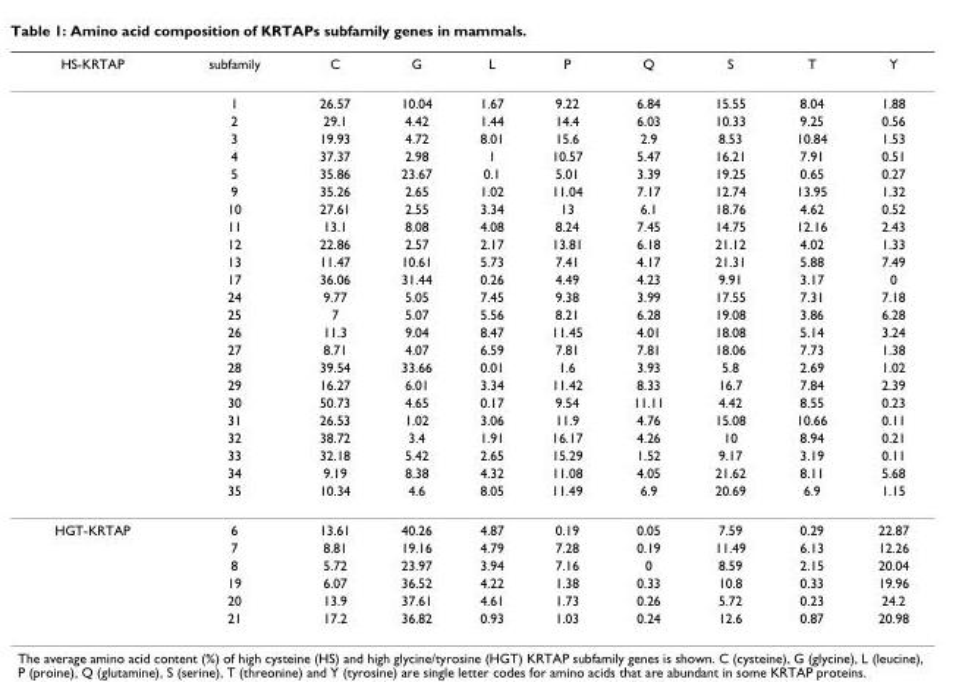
<table><thead><tr><td>HS-KRTAP</td><td>subfamily</td><td>C</td><td>G</td><td>L</td><td>P</td><td>Q</td><td>S</td><td>T</td><td>Y</td></tr></thead><tbody><tr><td></td><td>1</td><td>26.57</td><td>10.04</td><td>1.67</td><td>9.22</td><td>6.84</td><td>15.55</td><td>8.04</td><td>1.88</td></tr><tr><td></td><td>2</td><td>29.1</td><td>4.42</td><td>1.44</td><td>14.4</td><td>6.03</td><td>10.33</td><td>9.25</td><td>0.56</td></tr><tr><td></td><td>3</td><td>19.93</td><td>4.72</td><td>8.01</td><td>15.6</td><td>2.9</td><td>8.53</td><td>10.84</td><td>1.53</td></tr><tr><td></td><td>4</td><td>37.37</td><td>2.98</td><td>1</td><td>10.57</td><td>5.47</td><td>16.21</td><td>7.91</td><td>0.51</td></tr><tr><td></td><td>5</td><td>35.86</td><td>23.67</td><td>0.1</td><td>5.01</td><td>3.39</td><td>19.25</td><td>0.65</td><td>0.27</td></tr><tr><td></td><td>9</td><td>35.26</td><td>2.65</td><td>1.02</td><td>11.04</td><td>7.17</td><td>12.74</td><td>13.95</td><td>1.32</td></tr><tr><td></td><td>10</td><td>27.61</td><td>2.55</td><td>3.34</td><td>13</td><td>6.1</td><td>18.76</td><td>4.62</td><td>0.52</td></tr><tr><td></td><td>11</td><td>13.1</td><td>8.08</td><td>4.08</td><td>8.24</td><td>7.45</td><td>14.75</td><td>12.16</td><td>2.43</td></tr><tr><td></td><td>12</td><td>22.86</td><td>2.57</td><td>2.17</td><td>13.81</td><td>6.18</td><td>21.12</td><td>4.02</td><td>1.33</td></tr><tr><td></td><td>13</td><td>11.47</td><td>10.61</td><td>5.73</td><td>7.41</td><td>4.17</td><td>21.31</td><td>5.88</td><td>7.49</td></tr><tr><td></td><td>17</td><td>36.06</td><td>31.44</td><td>0.26</td><td>4.49</td><td>4.23</td><td>9.91</td><td>3.17</td><td>0</td></tr><tr><td></td><td>24</td><td>9.77</td><td>5.05</td><td>7.45</td><td>9.38</td><td>3.99</td><td>17.55</td><td>7.31</td><td>7.18</td></tr><tr><td></td><td>25</td><td>7</td><td>5.07</td><td>5.56</td><td>8.21</td><td>6.28</td><td>19.08</td><td>3.86</td><td>6.28</td></tr><tr><td></td><td>26</td><td>11.3</td><td>9.04</td><td>8.47</td><td>11.45</td><td>4.01</td><td>18.08</td><td>5.14</td><td>3.24</td></tr><tr><td></td><td>27</td><td>8.71</td><td>4.07</td><td>6.59</td><td>7.81</td><td>7.81</td><td>18.06</td><td>7.73</td><td>1.38</td></tr><tr><td></td><td>28</td><td>39.54</td><td>33.66</td><td>0.01</td><td>1.6</td><td>3.93</td><td>5.8</td><td>2.69</td><td>1.02</td></tr><tr><td></td><td>29</td><td>16.27</td><td>6.01</td><td>3.34</td><td>11.42</td><td>8.33</td><td>16.7</td><td>7.84</td><td>2.39</td></tr><tr><td></td><td>30</td><td>50.73</td><td>4.65</td><td>0.17</td><td>9.54</td><td>11.11</td><td>4.42</td><td>8.55</td><td>0.23</td></tr><tr><td></td><td>31</td><td>26.53</td><td>1.02</td><td>3.06</td><td>11.9</td><td>4.76</td><td>15.08</td><td>10.66</td><td>0.11</td></tr><tr><td></td><td>32</td><td>38.72</td><td>3.4</td><td>1.91</td><td>16.17</td><td>4.26</td><td>10</td><td>8.94</td><td>0.21</td></tr><tr><td></td><td>33</td><td>32.18</td><td>5.42</td><td>2.65</td><td>15.29</td><td>1.52</td><td>9.17</td><td>3.19</td><td>0.11</td></tr><tr><td></td><td>34</td><td>9.19</td><td>8.38</td><td>4.32</td><td>11.08</td><td>4.05</td><td>21.62</td><td>8.11</td><td>5.68</td></tr><tr><td></td><td>35</td><td>10.34</td><td>4.6</td><td>8.05</td><td>11.49</td><td>6.9</td><td>20.69</td><td>6.9</td><td>1.15</td></tr><tr><td rowspan="6">HGT-KRTAP</td><td>6</td><td>13.61</td><td>40.26</td><td>4.87</td><td>0.19</td><td>0.05</td><td>7.59</td><td>0.29</td><td>22.87</td></tr><tr><td>7</td><td>8.81</td><td>19.16</td><td>4.79</td><td>7.28</td><td>0.19</td><td>11.49</td><td>6.13</td><td>12.26</td></tr><tr><td>8</td><td>5.72</td><td>23.97</td><td>3.94</td><td>7.16</td><td>0</td><td>8.59</td><td>2.15</td><td>20.04</td></tr><tr><td>19</td><td>6.07</td><td>36.52</td><td>4.22</td><td>1.38</td><td>0.33</td><td>10.8</td><td>0.33</td><td>19.96</td></tr><tr><td>20</td><td>13.9</td><td>37.61</td><td>4.61</td><td>1.73</td><td>0.26</td><td>5.72</td><td>0.23</td><td>24.2</td></tr><tr><td>21</td><td>17.2</td><td>36.82</td><td>0.93</td><td>1.03</td><td>0.24</td><td>12.6</td><td>0.87</td><td>20.98</td></tr></tbody></table>